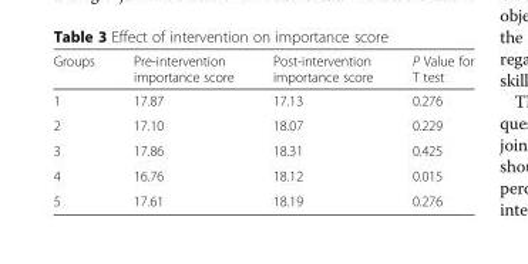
<table><thead><tr><td>Groups</td><td>Pre-intervention importance score</td><td>Post-intervention importance score</td><td>P Value for T test</td></tr></thead><tbody><tr><td>1</td><td>17.87</td><td>17.13</td><td>0.276</td></tr><tr><td>2</td><td>17.10</td><td>18.07</td><td>0.229</td></tr><tr><td>3</td><td>17.86</td><td>18.31</td><td>0.425</td></tr><tr><td>4</td><td>16.76</td><td>18.12</td><td>0.015</td></tr><tr><td>5</td><td>17.61</td><td>18.19</td><td>0.276</td></tr></tbody></table>